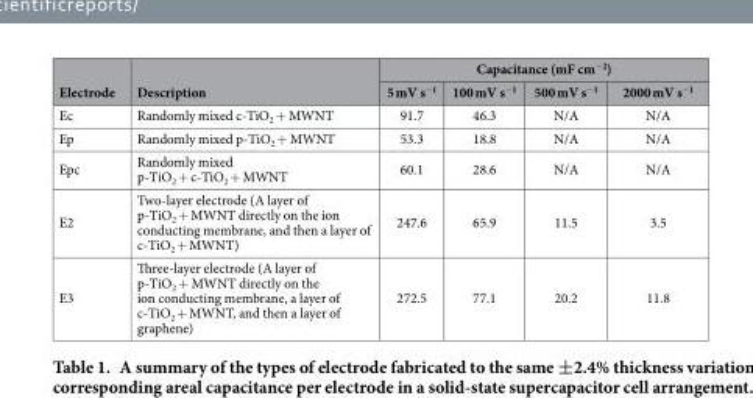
<table><thead><tr><td rowspan="2">Electrode</td><td rowspan="2">Description</td><td colspan="4">Capacitance (mF cm<sup>−2</sup>)</td></tr><tr><td>5 mV s<sup>−1</sup></td><td>100 mV s<sup>−1</sup></td><td>500 mV s<sup>−1</sup></td><td>2000 mV s<sup>−1</sup></td></tr></thead><tbody><tr><td>Ec</td><td>Randomly mixed c-TiO<sub>2</sub> + MWNT</td><td>91.7</td><td>46.3</td><td>N/A</td><td>N/A</td></tr><tr><td>Ep</td><td>Randomly mixed p-TiO<sub>2</sub> + MWNT</td><td>53.3</td><td>18.8</td><td>N/A</td><td>N/A</td></tr><tr><td>Epc</td><td>Randomly mixed p-TiO<sub>2</sub> + c-TiO<sub>2</sub> + MWNT</td><td>60.1</td><td>28.6</td><td>N/A</td><td>N/A</td></tr><tr><td>E2</td><td>Two-layer electrode (A layer of p-TiO<sub>2</sub> + MWNT directly on the ion conducting membrane, and then a layer of c-TiO<sub>2</sub> + MWNT)</td><td>247.6</td><td>65.9</td><td>11.5</td><td>3.5</td></tr><tr><td>E3</td><td>Three-layer electrode (A layer of p-TiO<sub>2</sub> + MWNT directly on the ion conducting membrane, a layer of c-TiO<sub>2</sub> + MWNT, and then a layer of graphene)</td><td>272.5</td><td>77.1</td><td>20.2</td><td>11.8</td></tr></tbody></table>